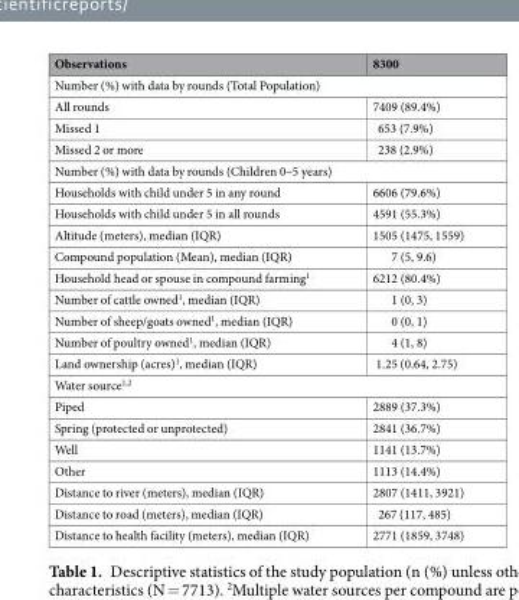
<table><thead><tr><td>Observations</td><td>8300</td></tr></thead><tbody><tr><td colspan="2">Number (%) with data by rounds (Total Population)</td></tr><tr><td>All rounds</td><td>7409 (89.4%)</td></tr><tr><td>Missed 1</td><td>653 (7.9%)</td></tr><tr><td>Missed 2 or more</td><td>238 (2.9%)</td></tr><tr><td colspan="2">Number (%) with data by rounds (Children 0–5 years)</td></tr><tr><td>Households with child under 5 in any round</td><td>6606 (79.6%)</td></tr><tr><td>Households with child under 5 in all rounds</td><td>4591 (55.3%)</td></tr><tr><td>Altitude (meters), median (IQR)</td><td>1505 (1475, 1559)</td></tr><tr><td>Compound population (Mean), median (IQR)</td><td>7 (5, 9.6)</td></tr><tr><td>Household head or spouse in compound farming<sup>1</sup></td><td>6212 (80.4%)</td></tr><tr><td>Number of cattle owned<sup>1</sup>, median (IQR)</td><td>1 (0, 3)</td></tr><tr><td>Number of sheep/goats owned<sup>1</sup>, median (IQR)</td><td>0 (0, 1)</td></tr><tr><td>Number of poultry owned<sup>1</sup>, median (IQR)</td><td>4 (1, 8)</td></tr><tr><td>Land ownership (acres)<sup>1</sup>, median (IQR)</td><td>1.25 (0.64, 2.75)</td></tr><tr><td colspan="2">Water source<sup>1,2</sup></td></tr><tr><td>Piped</td><td>2889 (37.3%)</td></tr><tr><td>Spring (protected or unprotected)</td><td>2841 (36.7%)</td></tr><tr><td>Well</td><td>1141 (13.7%)</td></tr><tr><td>Other</td><td>1113 (14.4%)</td></tr><tr><td>Distance to river (meters), median (IQR)</td><td>2807 (1411, 3921)</td></tr><tr><td>Distance to road (meters), median (IQR)</td><td>267 (117, 485)</td></tr><tr><td>Distance to health facility (meters), median (IQR)</td><td>2771 (1859, 3748)</td></tr></tbody></table>